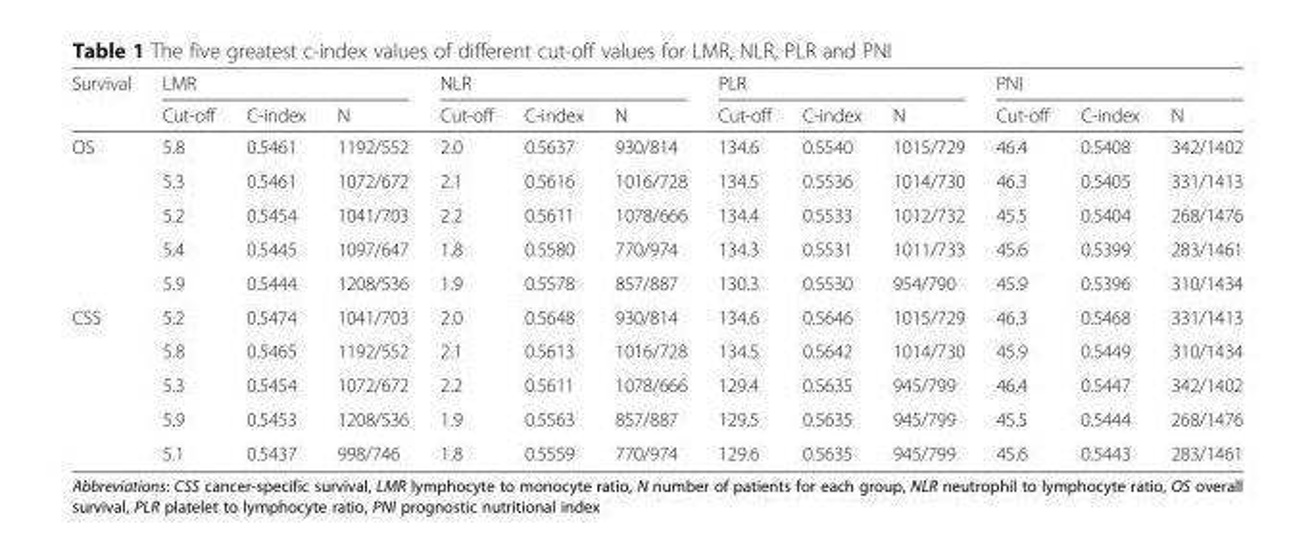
<table><thead><tr><td rowspan="2">Survival</td><td colspan="3">LMR</td><td colspan="3">NLR</td><td colspan="3">PLR</td><td colspan="3">PNI</td></tr><tr><td>Cut-off</td><td>C-index</td><td>N</td><td>Cut-off</td><td>C-index</td><td>N</td><td>Cut-off</td><td>C-index</td><td>N</td><td>Cut-off</td><td>C-index</td><td>N</td></tr></thead><tbody><tr><td rowspan="5">OS</td><td>5.8</td><td>0.5461</td><td>1192/552</td><td>2.0</td><td>0.5637</td><td>930/814</td><td>134.6</td><td>0.5540</td><td>1015/729</td><td>46.4</td><td>0.5408</td><td>342/1402</td></tr><tr><td>5.3</td><td>0.5461</td><td>1072/672</td><td>2.1</td><td>0.5616</td><td>1016/728</td><td>134.5</td><td>0.5536</td><td>1014/730</td><td>46.3</td><td>0.5405</td><td>331/1413</td></tr><tr><td>5.2</td><td>0.5454</td><td>1041/703</td><td>2.2</td><td>0.5611</td><td>1078/666</td><td>134.4</td><td>0.5533</td><td>1012/732</td><td>45.5</td><td>0.5404</td><td>268/1476</td></tr><tr><td>5.4</td><td>0.5445</td><td>1097/647</td><td>1.8</td><td>0.5580</td><td>770/974</td><td>134.3</td><td>0.5531</td><td>1011/733</td><td>45.6</td><td>0.5399</td><td>283/1461</td></tr><tr><td>5.9</td><td>0.5444</td><td>1208/536</td><td>1.9</td><td>0.5578</td><td>857/887</td><td>130.3</td><td>0.5530</td><td>954/790</td><td>45.9</td><td>0.5396</td><td>310/1434</td></tr><tr><td rowspan="5">CSS</td><td>5.2</td><td>0.5474</td><td>1041/703</td><td>2.0</td><td>0.5648</td><td>930/814</td><td>134.6</td><td>0.5646</td><td>1015/729</td><td>46.3</td><td>0.5468</td><td>331/1413</td></tr><tr><td>5.8</td><td>0.5465</td><td>1192/552</td><td>2.1</td><td>0.5613</td><td>1016/728</td><td>134.5</td><td>0.5642</td><td>1014/730</td><td>45.9</td><td>0.5449</td><td>310/1434</td></tr><tr><td>5.3</td><td>0.5454</td><td>1072/672</td><td>2.2</td><td>0.5611</td><td>1078/666</td><td>129.4</td><td>0.5635</td><td>945/799</td><td>46.4</td><td>0.5447</td><td>342/1402</td></tr><tr><td>5.9</td><td>0.5453</td><td>1208/536</td><td>1.9</td><td>0.5563</td><td>857/887</td><td>129.5</td><td>0.5635</td><td>945/799</td><td>45.5</td><td>0.5444</td><td>268/1476</td></tr><tr><td>5.1</td><td>0.5437</td><td>998/746</td><td>1.8</td><td>0.5559</td><td>770/974</td><td>129.6</td><td>0.5635</td><td>945/799</td><td>45.6</td><td>0.5443</td><td>283/1461</td></tr></tbody></table>